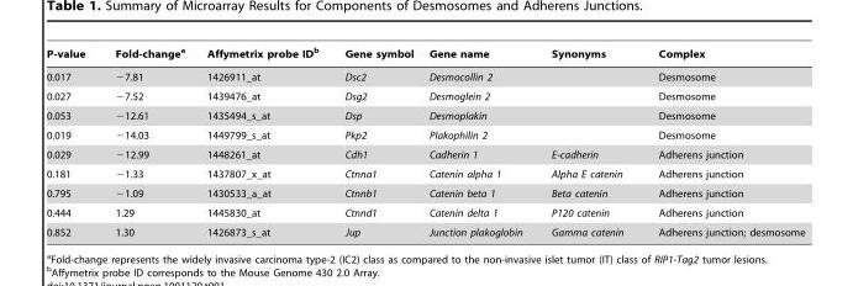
<table><thead><tr><td>P-value</td><td>Fold-change<sup>a</sup></td><td>Affymetrix probe ID<sup>b</sup></td><td>Gene symbol</td><td>Gene name</td><td>Synonyms</td><td>Complex</td></tr></thead><tbody><tr><td>0.017</td><td>−7.81</td><td>1426911_at</td><td>Dsc2</td><td>Desmocollin 2</td><td></td><td>Desmosome</td></tr><tr><td>0.027</td><td>−7.52</td><td>1439476_at</td><td>Dsg2</td><td>Desmoglein 2</td><td></td><td>Desmosome</td></tr><tr><td>0.053</td><td>−12.61</td><td>1435494_s_at</td><td>Dsp</td><td>Desmoplakin</td><td></td><td>Desmosome</td></tr><tr><td>0.019</td><td>−14.03</td><td>1449799_s_at</td><td>Pkp2</td><td>Plakophilin 2</td><td></td><td>Desmosome</td></tr><tr><td>0.029</td><td>−12.99</td><td>1448261_at</td><td>Cdh1</td><td>Cadherin 1</td><td>E-cadherin</td><td>Adherens junction</td></tr><tr><td>0.181</td><td>−1.33</td><td>1437807_x_at</td><td>Ctnna1</td><td>Catenin alpha 1</td><td>Alpha E catenin</td><td>Adherens junction</td></tr><tr><td>0.795</td><td>−1.09</td><td>1430533_a_at</td><td>Ctnnb1</td><td>Catenin beta 1</td><td>Beta catenin</td><td>Adherens junction</td></tr><tr><td>0.444</td><td>1.29</td><td>1445830_at</td><td>Ctnnd1</td><td>Catenin delta 1</td><td>P120 catenin</td><td>Adherens junction</td></tr><tr><td>0.852</td><td>1.30</td><td>1426873_s_at</td><td>Jup</td><td>Junction plakoglobin</td><td>Gamma catenin</td><td>Adherens junction; desmosome</td></tr></tbody></table>